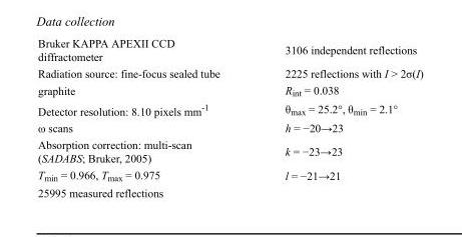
<table><tbody><tr><td>Bruker KAPPA APEXII CCD diffractometer</td><td>3106 independent reflections</td></tr><tr><td>Radiation source: fine-focus sealed tube</td><td>2225 reflections with I &gt; 2σ(I)</td></tr><tr><td>graphite</td><td>R<sub>int</sub> = 0.038</td></tr><tr><td>Detector resolution: 8.10 pixels mm<sup>-1</sup></td><td>θ<sub>max</sub> = 25.2°, θ<sub>min</sub> = 2.1°</td></tr><tr><td>ω scans</td><td>h = −20→23</td></tr><tr><td>Absorption correction: multi-scan (SADABS; Bruker, 2005)</td><td>k = −23→23</td></tr><tr><td>T<sub>min</sub> = 0.966, T<sub>max</sub> = 0.975</td><td>l = −21→21</td></tr><tr><td>25995 measured reflections</td><td></td></tr></tbody></table>